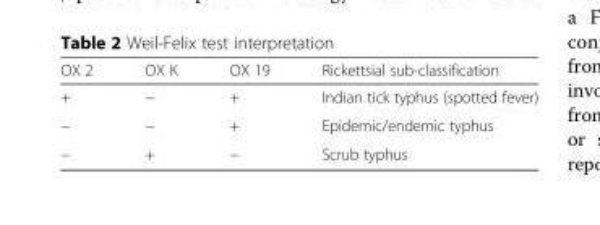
<table><thead><tr><td>OX 2</td><td>OX K</td><td>OX 19</td><td>Rickettsial sub-classification</td></tr></thead><tbody><tr><td>+</td><td>−</td><td>+</td><td>Indian tick typhus (spotted fever)</td></tr><tr><td>−</td><td>−</td><td>+</td><td>Epidemic/endemic typhus</td></tr><tr><td>−</td><td>+</td><td>−</td><td>Scrub typhus</td></tr></tbody></table>